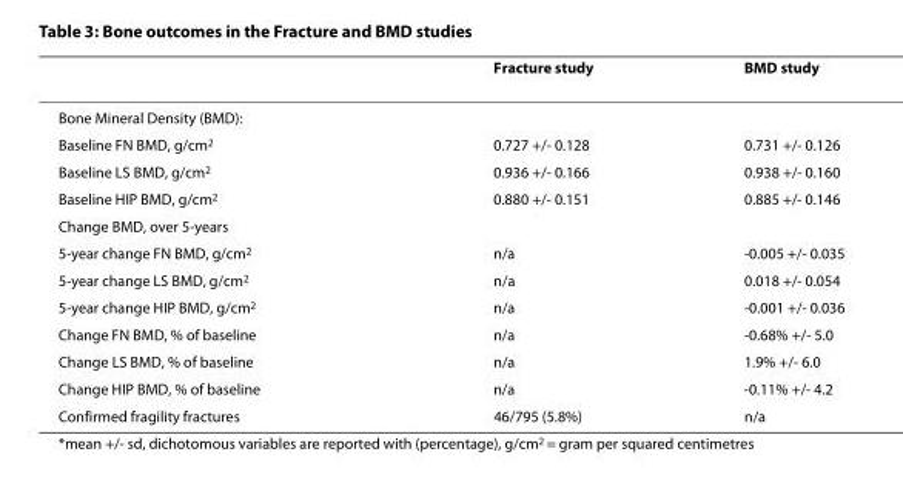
<table><thead><tr><td></td><td>Fracture study</td><td>BMD study</td></tr></thead><tbody><tr><td colspan="3">Bone Mineral Density (BMD):</td></tr><tr><td>Baseline FN BMD, g/cm<sup>2</sup></td><td>0.727 +/- 0.128</td><td>0.731 +/- 0.126</td></tr><tr><td>Baseline LS BMD, g/cm<sup>2</sup></td><td>0.936 +/- 0.166</td><td>0.938 +/- 0.160</td></tr><tr><td>Baseline HIP BMD, g/cm<sup>2</sup></td><td>0.880 +/- 0.151</td><td>0.885 +/- 0.146</td></tr><tr><td colspan="3">Change BMD, over 5-years</td></tr><tr><td>5-year change FN BMD, g/cm<sup>2</sup></td><td>n/a</td><td>-0.005 +/- 0.035</td></tr><tr><td>5-year change LS BMD, g/cm<sup>2</sup></td><td>n/a</td><td>0.018 +/- 0.054</td></tr><tr><td>5-year change HIP BMD, g/cm<sup>2</sup></td><td>n/a</td><td>-0.001 +/- 0.036</td></tr><tr><td>Change FN BMD, % of baseline</td><td>n/a</td><td>-0.68% +/- 5.0</td></tr><tr><td>Change LS BMD, % of baseline</td><td>n/a</td><td>1.9% +/- 6.0</td></tr><tr><td>Change HIP BMD, % of baseline</td><td>n/a</td><td>-0.11% +/- 4.2</td></tr><tr><td>Confirmed fragility fractures</td><td>46/795 (5.8%)</td><td>n/a</td></tr></tbody></table>